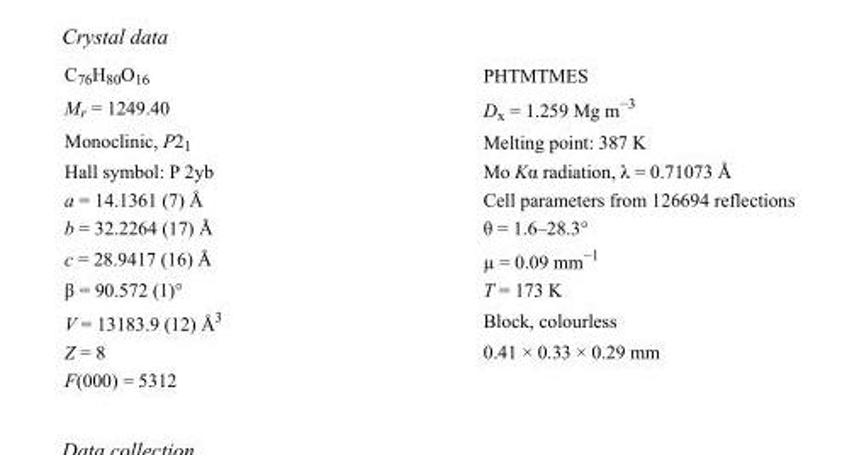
<table><tbody><tr><td>C<sub>76</sub>H<sub>80</sub>O<sub>16</sub></td><td>PHTMTMES</td></tr><tr><td>M<sub>r</sub> = 1249.40</td><td>D<sub>x</sub> = 1.259 Mg m<sup>−3</sup></td></tr><tr><td>Monoclinic, P2<sub>1</sub></td><td>Melting point: 387 K</td></tr><tr><td>Hall symbol: P 2yb</td><td>Mo Kα radiation, λ = 0.71073 Å</td></tr><tr><td>a = 14.1361 (7) Å</td><td>Cell parameters from 126694 reflections</td></tr><tr><td>b = 32.2264 (17) Å</td><td>θ = 1.6–28.3°</td></tr><tr><td>c = 28.9417 (16) Å</td><td>µ = 0.09 mm<sup>−1</sup></td></tr><tr><td>β = 90.572 (1)°</td><td>T = 173 K</td></tr><tr><td>V = 13183.9 (12) Å<sup>3</sup></td><td>Block, colourless</td></tr><tr><td>Z = 8</td><td>0.41 × 0.33 × 0.29 mm</td></tr><tr><td>F(000) = 5312</td><td></td></tr></tbody></table>